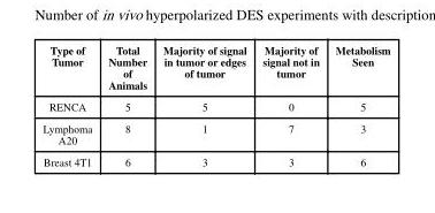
<table><thead><tr><td>Type of Tumor</td><td>Total Number of Animals</td><td>Majority of signal in tumor or edges of tumor</td><td>Majority of signal not in tumor</td><td>Metabolism Seen</td></tr></thead><tbody><tr><td>RENCA</td><td>5</td><td>5</td><td>0</td><td>5</td></tr><tr><td>Lymphoma A20</td><td>8</td><td>1</td><td>7</td><td>3</td></tr><tr><td>Breast 4T1</td><td>6</td><td>3</td><td>3</td><td>6</td></tr></tbody></table>